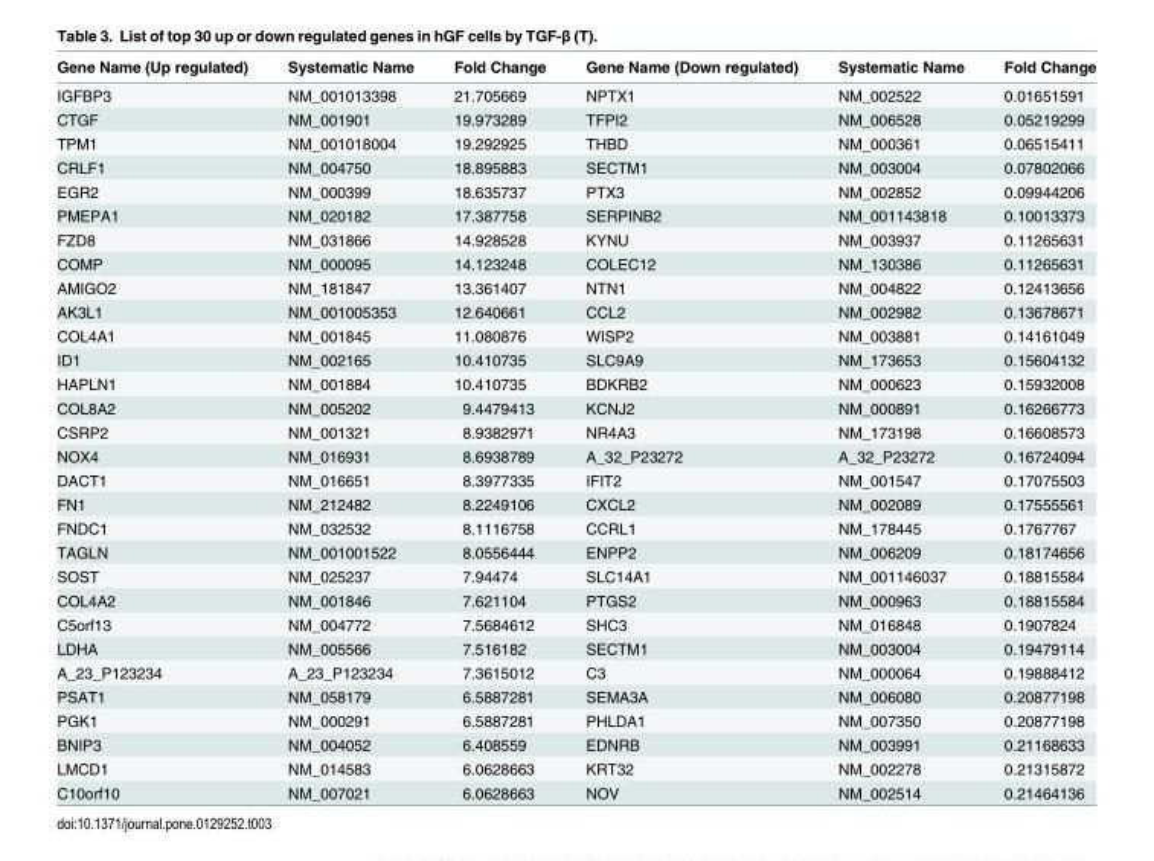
<table><thead><tr><td>Gene Name (Up regulated)</td><td>Systematic Name</td><td>Fold Change</td><td>Gene Name (Down regulated)</td><td>Systematic Name</td><td>Fold Change</td></tr></thead><tbody><tr><td>IGFBP3</td><td>NM_001013398</td><td>21.705669</td><td>NPTX1</td><td>NM_002522</td><td>0.01651591</td></tr><tr><td>CTGF</td><td>NM_001901</td><td>19.973289</td><td>TFPI2</td><td>NM_006528</td><td>0.05219299</td></tr><tr><td>TPM1</td><td>NM_001018004</td><td>19.292925</td><td>THBD</td><td>NM_000361</td><td>0.06515411</td></tr><tr><td>CRLF1</td><td>NM_004750</td><td>18.895883</td><td>SECTM1</td><td>NM_003004</td><td>0.07802066</td></tr><tr><td>EGR2</td><td>NM_000399</td><td>18.635737</td><td>PTX3</td><td>NM_002852</td><td>0.09944206</td></tr><tr><td>PMEPA1</td><td>NM_020182</td><td>17.387758</td><td>SERPINB2</td><td>NM_001143818</td><td>0.10013373</td></tr><tr><td>FZD8</td><td>NM_031866</td><td>14.928528</td><td>KYNU</td><td>NM_003937</td><td>0.11265631</td></tr><tr><td>COMP</td><td>NM_000095</td><td>14.123248</td><td>COLEC12</td><td>NM_130386</td><td>0.11265631</td></tr><tr><td>AMIGO2</td><td>NM_181847</td><td>13.361407</td><td>NTN1</td><td>NM_004822</td><td>0.12413656</td></tr><tr><td>AK3L1</td><td>NM_001005353</td><td>12.640661</td><td>CCL2</td><td>NM_002982</td><td>0.13678671</td></tr><tr><td>COL4A1</td><td>NM_001845</td><td>11.080876</td><td>WISP2</td><td>NM_003881</td><td>0.14161049</td></tr><tr><td>ID1</td><td>NM_002165</td><td>10.410735</td><td>SLC9A9</td><td>NM_173653</td><td>0.15604132</td></tr><tr><td>HAPLN1</td><td>NM_001884</td><td>10.410735</td><td>BDKRB2</td><td>NM_000623</td><td>0.15932008</td></tr><tr><td>COL8A2</td><td>NM_005202</td><td>9.4479413</td><td>KCNJ2</td><td>NM_000891</td><td>0.16266773</td></tr><tr><td>CSRP2</td><td>NM_001321</td><td>8.9382971</td><td>NR4A3</td><td>NM_173198</td><td>0.16608573</td></tr><tr><td>NOX4</td><td>NM_016931</td><td>8.6938789</td><td>A_32_P23272</td><td>A_32_P23272</td><td>0.16724094</td></tr><tr><td>DACT1</td><td>NM_016651</td><td>8.3977335</td><td>IFIT2</td><td>NM_001547</td><td>0.17075503</td></tr><tr><td>FN1</td><td>NM_212482</td><td>8.2249106</td><td>CXCL2</td><td>NM_002089</td><td>0.17555561</td></tr><tr><td>FNDC1</td><td>NM_032532</td><td>8.1116758</td><td>CCRL1</td><td>NM_178445</td><td>0.1767767</td></tr><tr><td>TAGLN</td><td>NM_001001522</td><td>8.0556444</td><td>ENPP2</td><td>NM_006209</td><td>0.18174656</td></tr><tr><td>SOST</td><td>NM_025237</td><td>7.94474</td><td>SLC14A1</td><td>NM_001146037</td><td>0.18815584</td></tr><tr><td>COL4A2</td><td>NM_001846</td><td>7.621104</td><td>PTGS2</td><td>NM_000963</td><td>0.18815584</td></tr><tr><td>C5orf13</td><td>NM_004772</td><td>7.5684612</td><td>SHC3</td><td>NM_016848</td><td>0.1907824</td></tr><tr><td>LDHA</td><td>NM_005566</td><td>7.516182</td><td>SECTM1</td><td>NM_003004</td><td>0.19479114</td></tr><tr><td>A_23_P123234</td><td>A_23_P123234</td><td>7.3615012</td><td>C3</td><td>NM_000064</td><td>0.19888412</td></tr><tr><td>PSAT1</td><td>NM_058179</td><td>6.5887281</td><td>SEMA3A</td><td>NM_006080</td><td>0.20877198</td></tr><tr><td>PGK1</td><td>NM_000291</td><td>6.5887281</td><td>PHLDA1</td><td>NM_007350</td><td>0.20877198</td></tr><tr><td>BNIP3</td><td>NM_004052</td><td>6.408559</td><td>EDNRB</td><td>NM_003991</td><td>0.21168633</td></tr><tr><td>LMCD1</td><td>NM_014583</td><td>6.0628663</td><td>KRT32</td><td>NM_002278</td><td>0.21315872</td></tr><tr><td>C10orf10</td><td>NM_007021</td><td>6.0628663</td><td>NOV</td><td>NM_002514</td><td>0.21464136</td></tr></tbody></table>